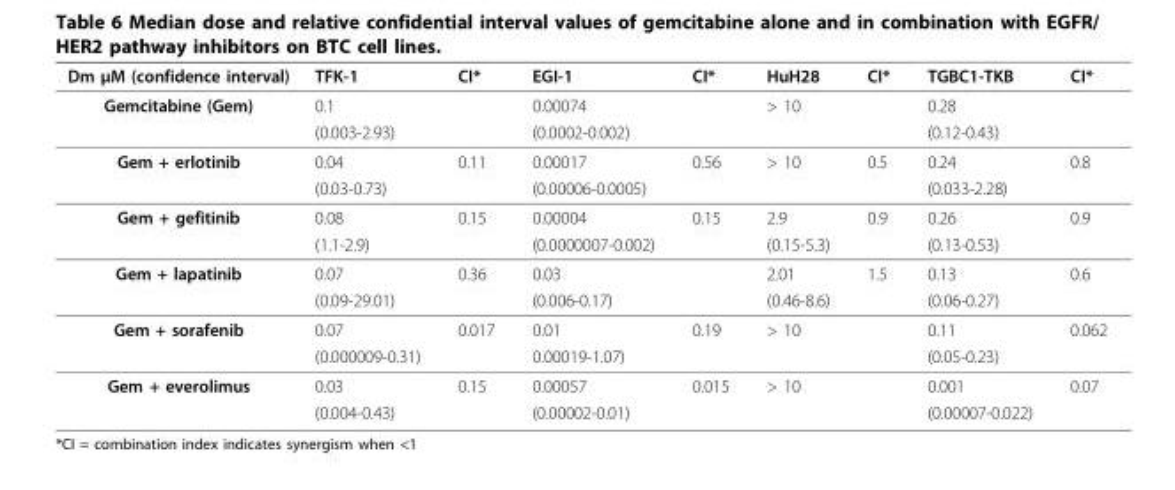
<table><thead><tr><td>Dm μM (confidence interval)</td><td>TFK-1</td><td>CI*</td><td>EGI-1</td><td>CI*</td><td>HuH28</td><td>CI*</td><td>TGBC1-TKB</td><td>CI*</td></tr></thead><tbody><tr><td rowspan="2">Gemcitabine (Gem)</td><td>0.1</td><td></td><td>0.00074</td><td></td><td>&gt; 10</td><td></td><td>0.28</td><td></td></tr><tr><td>(0.003-2.93)</td><td></td><td>(0.0002-0.002)</td><td></td><td></td><td></td><td>(0.12-0.43)</td><td></td></tr><tr><td rowspan="2">Gem + erlotinib</td><td>0.04</td><td>0.11</td><td>0.00017</td><td>0.56</td><td>&gt; 10</td><td>0.5</td><td>0.24</td><td>0.8</td></tr><tr><td>(0.03-0.73)</td><td></td><td>(0.00006-0.0005)</td><td></td><td></td><td></td><td>(0.033-2.28)</td><td></td></tr><tr><td rowspan="2">Gem + gefitinib</td><td>0.08</td><td>0.15</td><td>0.00004</td><td>0.15</td><td>2.9</td><td>0.9</td><td>0.26</td><td>0.9</td></tr><tr><td>(1.1-2.9)</td><td></td><td>(0.0000007-0.002)</td><td></td><td>(0.15-5.3)</td><td></td><td>(0.13-0.53)</td><td></td></tr><tr><td rowspan="2">Gem + lapatinib</td><td>0.07</td><td>0.36</td><td>0.03</td><td></td><td>2.01</td><td>1.5</td><td>0.13</td><td>0.6</td></tr><tr><td>(0.09-29.01)</td><td></td><td>(0.006-0.17)</td><td></td><td>(0.46-8.6)</td><td></td><td>(0.06-0.27)</td><td></td></tr><tr><td rowspan="2">Gem + sorafenib</td><td>0.07</td><td>0.017</td><td>0.01</td><td>0.19</td><td>&gt; 10</td><td></td><td>0.11</td><td>0.062</td></tr><tr><td>(0.000009-0.31)</td><td></td><td>0.00019-1.07)</td><td></td><td></td><td></td><td>(0.05-0.23)</td><td></td></tr><tr><td rowspan="2">Gem + everolimus</td><td>0.03</td><td>0.15</td><td>0.00057</td><td>0.015</td><td>&gt; 10</td><td></td><td>0.001</td><td>0.07</td></tr><tr><td>(0.004-0.43)</td><td></td><td>(0.00002-0.01)</td><td></td><td></td><td></td><td>(0.00007-0.022)</td><td></td></tr></tbody></table>